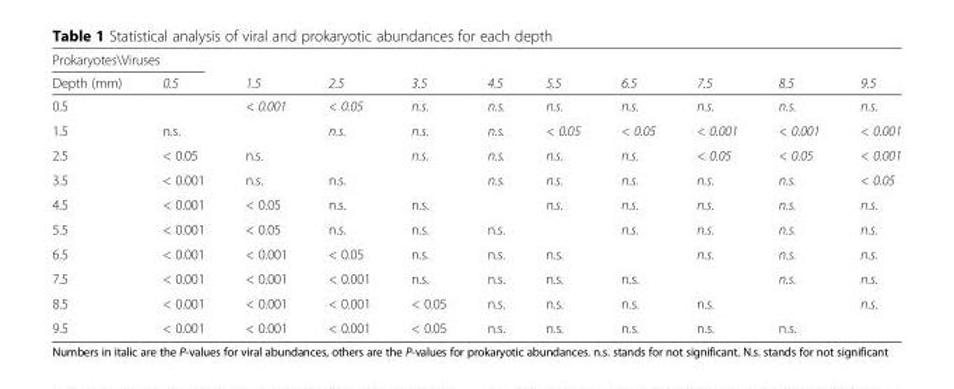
<table><thead><tr><td colspan="2">Prokaryotes\Viruses</td><td rowspan="2">1.5</td><td rowspan="2">2.5</td><td rowspan="2">3.5</td><td rowspan="2">4.5</td><td rowspan="2">5.5</td><td rowspan="2">6.5</td><td rowspan="2">7.5</td><td rowspan="2">8.5</td><td rowspan="2">9.5</td></tr><tr><td>Depth (mm)</td><td>0.5</td></tr></thead><tbody><tr><td>0.5</td><td></td><td>&lt; 0.001</td><td>&lt; 0.05</td><td>n.s.</td><td>n.s.</td><td>n.s.</td><td>n.s.</td><td>n.s.</td><td>n.s.</td><td>n.s.</td></tr><tr><td>1.5</td><td>n.s.</td><td></td><td>n.s.</td><td>n.s.</td><td>n.s.</td><td>&lt; 0.05</td><td>&lt; 0.05</td><td>&lt; 0.001</td><td>&lt; 0.001</td><td>&lt; 0.001</td></tr><tr><td>2.5</td><td>&lt; 0.05</td><td>n.s.</td><td></td><td>n.s.</td><td>n.s.</td><td>n.s.</td><td>n.s.</td><td>&lt; 0.05</td><td>&lt; 0.05</td><td>&lt; 0.001</td></tr><tr><td>3.5</td><td>&lt; 0.001</td><td>n.s.</td><td>n.s.</td><td></td><td>n.s.</td><td>n.s.</td><td>n.s.</td><td>n.s.</td><td>n.s.</td><td>&lt; 0.05</td></tr><tr><td>4.5</td><td>&lt; 0.001</td><td>&lt; 0.05</td><td>n.s.</td><td>n.s.</td><td></td><td>n.s.</td><td>n.s.</td><td>n.s.</td><td>n.s.</td><td>n.s.</td></tr><tr><td>5.5</td><td>&lt; 0.001</td><td>&lt; 0.05</td><td>n.s.</td><td>n.s.</td><td>n.s.</td><td></td><td>n.s.</td><td>n.s.</td><td>n.s.</td><td>n.s.</td></tr><tr><td>6.5</td><td>&lt; 0.001</td><td>&lt; 0.001</td><td>&lt; 0.05</td><td>n.s.</td><td>n.s.</td><td>n.s.</td><td></td><td>n.s.</td><td>n.s.</td><td>n.s.</td></tr><tr><td>7.5</td><td>&lt; 0.001</td><td>&lt; 0.001</td><td>&lt; 0.001</td><td>n.s.</td><td>n.s.</td><td>n.s.</td><td>n.s.</td><td></td><td>n.s.</td><td>n.s.</td></tr><tr><td>8.5</td><td>&lt; 0.001</td><td>&lt; 0.001</td><td>&lt; 0.001</td><td>&lt; 0.05</td><td>n.s.</td><td>n.s.</td><td>n.s.</td><td>n.s.</td><td></td><td>n.s.</td></tr><tr><td>9.5</td><td>&lt; 0.001</td><td>&lt; 0.001</td><td>&lt; 0.001</td><td>&lt; 0.05</td><td>n.s.</td><td>n.s.</td><td>n.s.</td><td>n.s.</td><td>n.s.</td><td></td></tr></tbody></table>